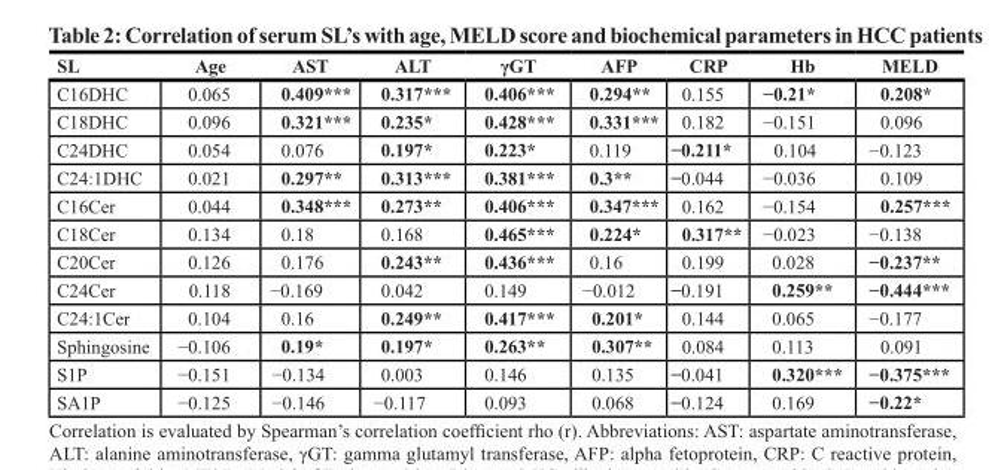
<table><thead><tr><td>SL</td><td>Age</td><td>AST</td><td>ALT</td><td>γGT</td><td>AFP</td><td>CRP</td><td>Hb</td><td>MELD</td></tr></thead><tbody><tr><td>C16DHC</td><td>0.065</td><td>0.409***</td><td>0.317***</td><td>0.406***</td><td>0.294**</td><td>0.155</td><td>−0.21*</td><td>0.208*</td></tr><tr><td>C18DHC</td><td>0.096</td><td>0.321***</td><td>0.235*</td><td>0.428***</td><td>0.331***</td><td>0.182</td><td>−0.151</td><td>0.096</td></tr><tr><td>C24DHC</td><td>0.054</td><td>0.076</td><td>0.197*</td><td>0.223*</td><td>0.119</td><td>−0.211*</td><td>0.104</td><td>−0.123</td></tr><tr><td>C24:1DHC</td><td>0.021</td><td>0.297**</td><td>0.313***</td><td>0.381***</td><td>0.3**</td><td>−0.044</td><td>−0.036</td><td>0.109</td></tr><tr><td>C16Cer</td><td>0.044</td><td>0.348***</td><td>0.273**</td><td>0.406***</td><td>0.347***</td><td>0.162</td><td>−0.154</td><td>0.257***</td></tr><tr><td>C18Cer</td><td>0.134</td><td>0.18</td><td>0.168</td><td>0.465***</td><td>0.224*</td><td>0.317**</td><td>−0.023</td><td>−0.138</td></tr><tr><td>C20Cer</td><td>0.126</td><td>0.176</td><td>0.243**</td><td>0.436***</td><td>0.16</td><td>0.199</td><td>0.028</td><td>−0.237**</td></tr><tr><td>C24Cer</td><td>0.118</td><td>−0.169</td><td>0.042</td><td>0.149</td><td>−0.012</td><td>−0.191</td><td>0.259**</td><td>−0.444***</td></tr><tr><td>C24:1Cer</td><td>0.104</td><td>0.16</td><td>0.249**</td><td>0.417***</td><td>0.201*</td><td>0.144</td><td>0.065</td><td>−0.177</td></tr><tr><td>Sphingosine</td><td>−0.106</td><td>0.19*</td><td>0.197*</td><td>0.263**</td><td>0.307**</td><td>0.084</td><td>0.113</td><td>0.091</td></tr><tr><td>S1P</td><td>−0.151</td><td>−0.134</td><td>0.003</td><td>0.146</td><td>0.135</td><td>−0.041</td><td>0.320***</td><td>−0.375***</td></tr><tr><td>SA1P</td><td>−0.125</td><td>−0.146</td><td>−0.117</td><td>0.093</td><td>0.068</td><td>−0.124</td><td>0.169</td><td>−0.22*</td></tr></tbody></table>